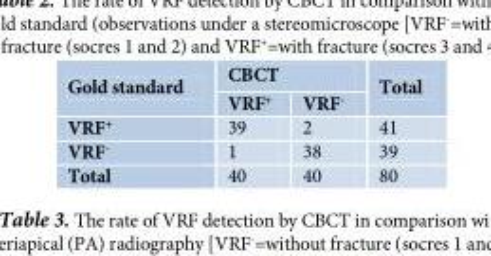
<table><thead><tr><td rowspan="2">Gold standard</td><td colspan="2">CBCT</td><td rowspan="2">Total</td></tr><tr><td>VRF<sup>+</sup></td><td>VRF<sup>-</sup></td></tr></thead><tbody><tr><td>VRF<sup>+</sup></td><td>39</td><td>2</td><td>41</td></tr><tr><td>VRF<sup>-</sup></td><td>1</td><td>38</td><td>39</td></tr><tr><td>Total</td><td>40</td><td>40</td><td>80</td></tr></tbody></table>